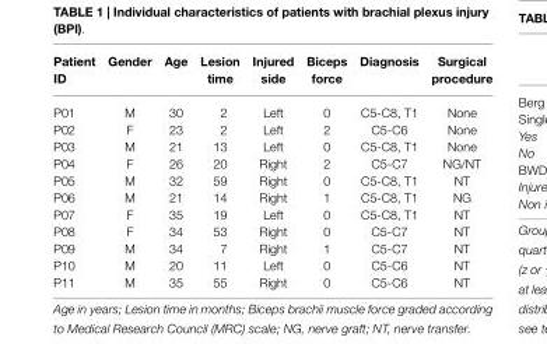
<table><thead><tr><td>Patient ID</td><td>Gender</td><td>Age</td><td>Lesion time</td><td>Injured side</td><td>Biceps force</td><td>Diagnosis</td><td>Surgical procedure</td></tr></thead><tbody><tr><td>P01</td><td>M</td><td>30</td><td>2</td><td>Left</td><td>0</td><td>C5-C8, T1</td><td>None</td></tr><tr><td>P02</td><td>F</td><td>23</td><td>2</td><td>Left</td><td>2</td><td>C5-C6</td><td>None</td></tr><tr><td>P03</td><td>M</td><td>21</td><td>13</td><td>Left</td><td>0</td><td>C5-C8, T1</td><td>None</td></tr><tr><td>P04</td><td>F</td><td>26</td><td>20</td><td>Right</td><td>2</td><td>C5-C7</td><td>NG/NT</td></tr><tr><td>P05</td><td>M</td><td>32</td><td>59</td><td>Right</td><td>0</td><td>C5-C8, T1</td><td>NT</td></tr><tr><td>P06</td><td>M</td><td>21</td><td>14</td><td>Right</td><td>1</td><td>C5-C8, T1</td><td>NG</td></tr><tr><td>P07</td><td>F</td><td>35</td><td>19</td><td>Left</td><td>0</td><td>C5-C8, T1</td><td>NT</td></tr><tr><td>P08</td><td>F</td><td>34</td><td>53</td><td>Right</td><td>0</td><td>C5-C7</td><td>NT</td></tr><tr><td>P09</td><td>M</td><td>34</td><td>7</td><td>Right</td><td>1</td><td>C5-C7</td><td>NT</td></tr><tr><td>P10</td><td>M</td><td>20</td><td>11</td><td>Left</td><td>0</td><td>C5-C6</td><td>NT</td></tr><tr><td>P11</td><td>M</td><td>35</td><td>55</td><td>Right</td><td>0</td><td>C5-C6</td><td>NT</td></tr></tbody></table>